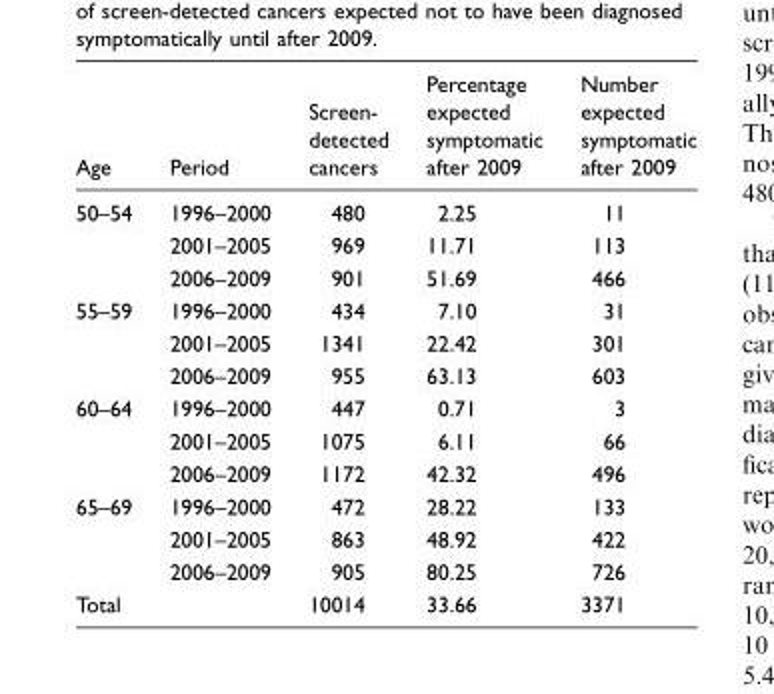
<table><thead><tr><td>Age</td><td>Period</td><td>Screen- detected cancers</td><td>Percentage expected symptomatic after 2009</td><td>Number expected symptomatic after 2009</td></tr></thead><tbody><tr><td rowspan="3">50–54</td><td>1996–2000</td><td>480</td><td>2.25</td><td>11</td></tr><tr><td>2001–2005</td><td>969</td><td>11.71</td><td>113</td></tr><tr><td>2006–2009</td><td>901</td><td>51.69</td><td>466</td></tr><tr><td rowspan="3">55–59</td><td>1996–2000</td><td>434</td><td>7.10</td><td>31</td></tr><tr><td>2001–2005</td><td>1341</td><td>22.42</td><td>301</td></tr><tr><td>2006–2009</td><td>955</td><td>63.13</td><td>603</td></tr><tr><td rowspan="3">60–64</td><td>1996–2000</td><td>447</td><td>0.71</td><td>3</td></tr><tr><td>2001–2005</td><td>1075</td><td>6.11</td><td>66</td></tr><tr><td>2006–2009</td><td>1172</td><td>42.32</td><td>496</td></tr><tr><td rowspan="3">65–69</td><td>1996–2000</td><td>472</td><td>28.22</td><td>133</td></tr><tr><td>2001–2005</td><td>863</td><td>48.92</td><td>422</td></tr><tr><td>2006–2009</td><td>905</td><td>80.25</td><td>726</td></tr><tr><td colspan="2">Total</td><td>10014</td><td>33.66</td><td>3371</td></tr></tbody></table>